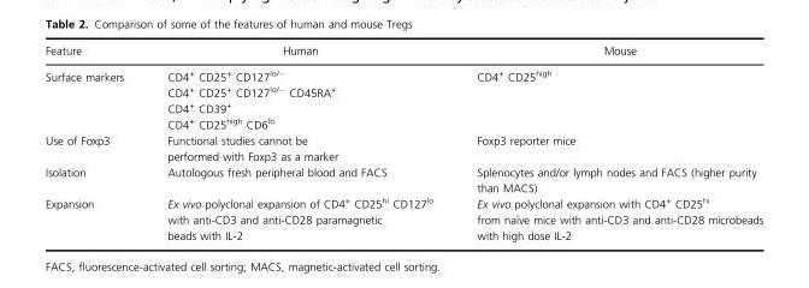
<table><thead><tr><td>Feature</td><td>Human</td><td>Mouse</td></tr></thead><tbody><tr><td>Surface markers</td><td>CD4<sup>+</sup> CD25<sup>+</sup> CD127<sup>lo/−</sup> CD4<sup>+</sup> CD25<sup>+</sup> CD127<sup>lo/−</sup> CD45RA<sup>+</sup> CD4<sup>+</sup> CD39<sup>+</sup> CD4<sup>+</sup> CD25<sup>high</sup> CD6<sup>lo</sup></td><td>CD4<sup>+</sup> CD25<sup>high</sup></td></tr><tr><td>Use of Foxp3</td><td>Functional studies cannot be performed with Foxp3 as a marker</td><td>Foxp3 reporter mice</td></tr><tr><td>Isolation</td><td>Autologous fresh peripheral blood and FACS</td><td>Splenocytes and/or lymph nodes and FACS (higher purity than MACS)</td></tr><tr><td>Expansion</td><td>Ex vivo polyclonal expansion of CD4<sup>+</sup> CD25<sup>hi</sup> CD127<sup>lo</sup> with anti-CD3 and anti-CD28 paramagnetic beads with IL-2</td><td>Ex vivo polyclonal expansion with CD4+ CD25hi from na€ıve mice with anti-CD3 and anti-CD28 microbeads with high dose IL-2</td></tr></tbody></table>